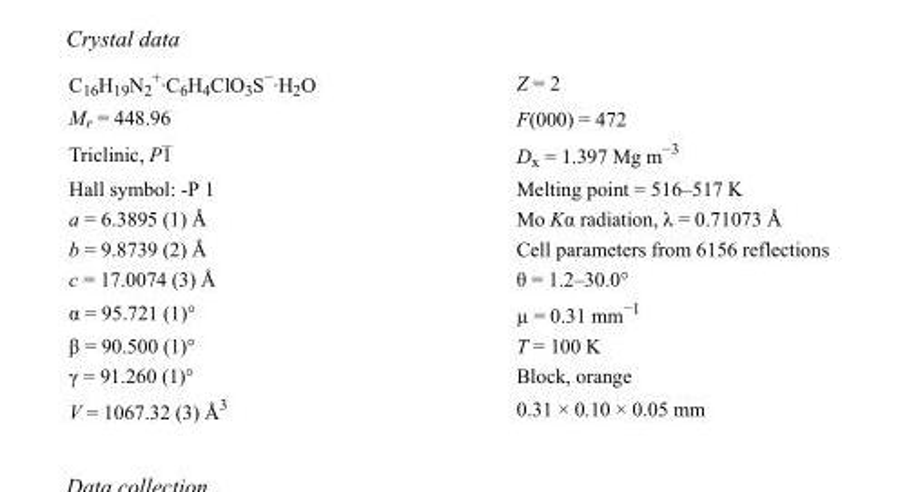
<table><tbody><tr><td>C<sub>16</sub>H<sub>19</sub>N<sub>2</sub> <sup>+</sup>·C<sub>6</sub>H<sub>4</sub>ClO<sub>3</sub>S<sup>−</sup>·H<sub>2</sub>O</td><td>Z = 2</td></tr><tr><td>M<sub>r</sub> = 448.96</td><td>F(000) = 472</td></tr><tr><td>Triclinic, P1</td><td>D<sub>x</sub> = 1.397 Mg m<sup>−3</sup></td></tr><tr><td>Hall symbol: -P 1</td><td>Melting point = 516–517 K</td></tr><tr><td>a = 6.3895 (1) Å</td><td>Mo Kα radiation, λ = 0.71073 Å</td></tr><tr><td>b = 9.8739 (2) Å</td><td>Cell parameters from 6156 reflections</td></tr><tr><td>c = 17.0074 (3) Å</td><td>θ = 1.2–30.0°</td></tr><tr><td>α = 95.721 (1)°</td><td>µ = 0.31 mm<sup>−1</sup></td></tr><tr><td>β = 90.500 (1)°</td><td>T = 100 K</td></tr><tr><td>γ = 91.260 (1)°</td><td>Block, orange</td></tr><tr><td>V = 1067.32 (3) Å<sup>3</sup></td><td>0.31 × 0.10 × 0.05 mm</td></tr></tbody></table>